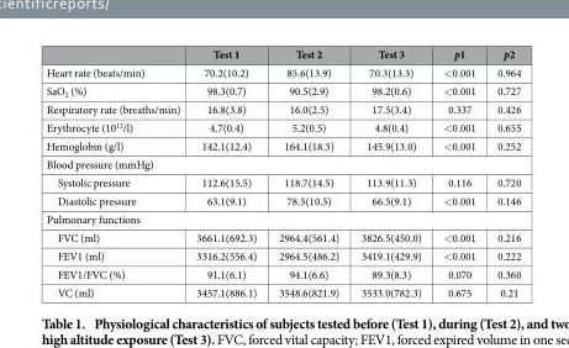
<table><thead><tr><td></td><td>Test 1</td><td>Test 2</td><td>Test 3</td><td>p1</td><td>p2</td></tr></thead><tbody><tr><td>Heart rate (beats/min)</td><td>70.2(10.2)</td><td>85.6(13.9)</td><td>70.3(13.3)</td><td>&lt; 0.001</td><td>0.964</td></tr><tr><td>SaO<sub>2</sub> (%)</td><td>98.3(0.7)</td><td>90.5(2.9)</td><td>98.2(0.6)</td><td>&lt; 0.001</td><td>0.727</td></tr><tr><td>Respiratory rate (breaths/min)</td><td>16.8(3.8)</td><td>16.0(2.5)</td><td>17.5(3.4)</td><td>0.337</td><td>0.426</td></tr><tr><td>Erythrocyte (10<sup>12</sup>/l)</td><td>4.7(0.4)</td><td>5.2(0.5)</td><td>4.8(0.4)</td><td>&lt; 0.001</td><td>0.655</td></tr><tr><td>Hemoglobin (g/l)</td><td>142.1(12.4)</td><td>164.1(18.3)</td><td>145.9(13.0)</td><td>&lt; 0.001</td><td>0.252</td></tr><tr><td colspan="6">Blood pressure (mmHg)</td></tr><tr><td>Systolic pressure</td><td>112.6(15.5)</td><td>118.7(14.5)</td><td>113.9(11.3)</td><td>0.116</td><td>0.720</td></tr><tr><td>Diastolic pressure</td><td>63.1(9.1)</td><td>78.5(10.5)</td><td>66.5(9.1)</td><td>&lt; 0.001</td><td>0.146</td></tr><tr><td colspan="6">Pulmonary functions</td></tr><tr><td>FVC (ml)</td><td>3661.1(692.3)</td><td>2964.4(561.4)</td><td>3826.5(450.0)</td><td>&lt; 0.001</td><td>0.216</td></tr><tr><td>FEV1 (ml)</td><td>3316.2(556.4)</td><td>2964.5(486.2)</td><td>3419.1(429.9)</td><td>&lt; 0.001</td><td>0.222</td></tr><tr><td>FEV1/FVC (%)</td><td>91.1(6.1)</td><td>94.1(6.6)</td><td>89.3(8.3)</td><td>0.070</td><td>0.360</td></tr><tr><td>VC (ml)</td><td>3457.1(886.1)</td><td>3548.6(821.9)</td><td>3533.0(782.3)</td><td>0.675</td><td>0.21</td></tr></tbody></table>